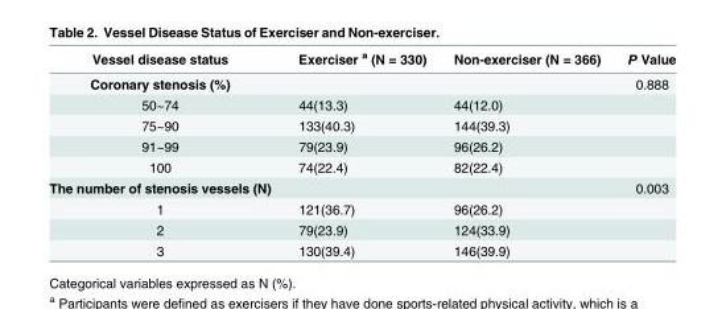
<table><thead><tr><td>Vessel disease status</td><td>Exerciser <sup>a</sup> (N = 330)</td><td>Non-exerciser (N = 366)</td><td>P Value</td></tr></thead><tbody><tr><td>Coronary stenosis (%)</td><td></td><td></td><td>0.888</td></tr><tr><td>50~74</td><td>44(13.3)</td><td>44(12.0)</td><td></td></tr><tr><td>75~90</td><td>133(40.3)</td><td>144(39.3)</td><td></td></tr><tr><td>91~99</td><td>79(23.9)</td><td>96(26.2)</td><td></td></tr><tr><td>100</td><td>74(22.4)</td><td>82(22.4)</td><td></td></tr><tr><td>The number of stenosis vessels (N)</td><td></td><td></td><td>0.003</td></tr><tr><td>1</td><td>121(36.7)</td><td>96(26.2)</td><td></td></tr><tr><td>2</td><td>79(23.9)</td><td>124(33.9)</td><td></td></tr><tr><td>3</td><td>130(39.4)</td><td>146(39.9)</td><td></td></tr></tbody></table>